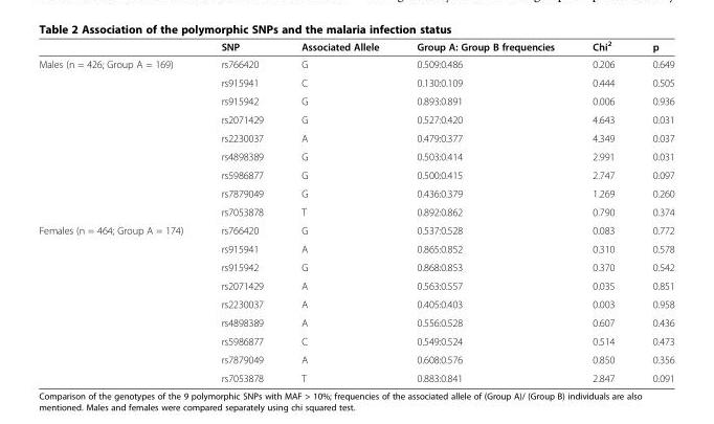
<table><thead><tr><td></td><td>SNP</td><td>Associated Allele</td><td>Group A: Group B frequencies</td><td>Chi<sup>2</sup></td><td>p</td></tr></thead><tbody><tr><td rowspan="9">Males (n = 426; Group A = 169)</td><td>rs766420</td><td>G</td><td>0.509:0.486</td><td>0.206</td><td>0.649</td></tr><tr><td>rs915941</td><td>C</td><td>0.130:0.109</td><td>0.444</td><td>0.505</td></tr><tr><td>rs915942</td><td>G</td><td>0.893:0.891</td><td>0.006</td><td>0.936</td></tr><tr><td>rs2071429</td><td>G</td><td>0.527:0.420</td><td>4.643</td><td>0.031</td></tr><tr><td>rs2230037</td><td>A</td><td>0.479:0.377</td><td>4.349</td><td>0.037</td></tr><tr><td>rs4898389</td><td>G</td><td>0.503:0.414</td><td>2.991</td><td>0.031</td></tr><tr><td>rs5986877</td><td>G</td><td>0.500:0.415</td><td>2.747</td><td>0.097</td></tr><tr><td>rs7879049</td><td>G</td><td>0.436:0.379</td><td>1.269</td><td>0.260</td></tr><tr><td>rs7053878</td><td>T</td><td>0.892:0.862</td><td>0.790</td><td>0.374</td></tr><tr><td rowspan="9">Females (n = 464; Group A = 174)</td><td>rs766420</td><td>G</td><td>0.537:0.528</td><td>0.083</td><td>0.772</td></tr><tr><td>rs915941</td><td>A</td><td>0.865:0.852</td><td>0.310</td><td>0.578</td></tr><tr><td>rs915942</td><td>G</td><td>0.868:0.853</td><td>0.370</td><td>0.542</td></tr><tr><td>rs2071429</td><td>A</td><td>0.563:0.557</td><td>0.035</td><td>0.851</td></tr><tr><td>rs2230037</td><td>A</td><td>0.405:0.403</td><td>0.003</td><td>0.958</td></tr><tr><td>rs4898389</td><td>A</td><td>0.556:0.528</td><td>0.607</td><td>0.436</td></tr><tr><td>rs5986877</td><td>C</td><td>0.549:0.524</td><td>0.514</td><td>0.473</td></tr><tr><td>rs7879049</td><td>A</td><td>0.608:0.576</td><td>0.850</td><td>0.356</td></tr><tr><td>rs7053878</td><td>T</td><td>0.883:0.841</td><td>2.847</td><td>0.091</td></tr></tbody></table>